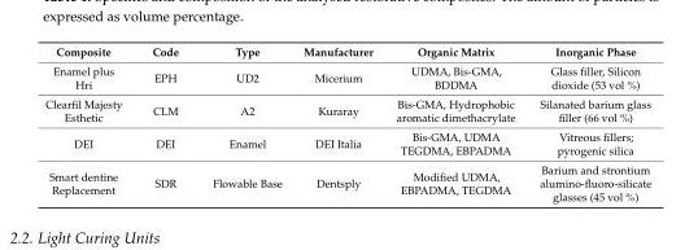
<table><thead><tr><td>Composite</td><td>Code</td><td>Type</td><td>Manufacturer</td><td>Organic Matrix</td><td>Inorganic Phase</td></tr></thead><tbody><tr><td>Enamel plus Hri</td><td>EPH</td><td>UD2</td><td>Micerium</td><td>UDMA, Bis-GMA, BDDMA</td><td>Glass filler, Silicon dioxide (53 vol %)</td></tr><tr><td>Clearfil Majesty Esthetic</td><td>CLM</td><td>A2</td><td>Kuraray</td><td>Bis-GMA, Hydrophobic aromatic dimethacrylate</td><td>Silanated barium glass filler (66 vol %)</td></tr><tr><td>DEI</td><td>DEI</td><td>Enamel</td><td>DEI Italia</td><td>Bis-GMA, UDMA TEGDMA, EBPADMA</td><td>Vitreous fillers; pyrogenic silica</td></tr><tr><td>Smart dentine Replacement</td><td>SDR</td><td>Flowable Base</td><td>Dentsply</td><td>Modified UDMA, EBPADMA, TEGDMA</td><td>Barium and strontium alumino-fluoro-silicate glasses (45 vol %)</td></tr></tbody></table>